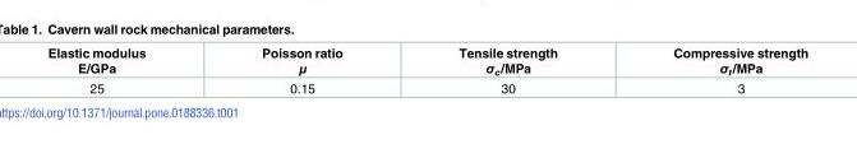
<table><thead><tr><td>Elastic modulus E/GPa</td><td>Poisson ratio μ</td><td>Tensile strength σ<sub>c</sub>/MPa</td><td>Compressive strength σ<sub>t</sub>/MPa</td></tr></thead><tbody><tr><td>25</td><td>0.15</td><td>30</td><td>3</td></tr></tbody></table>